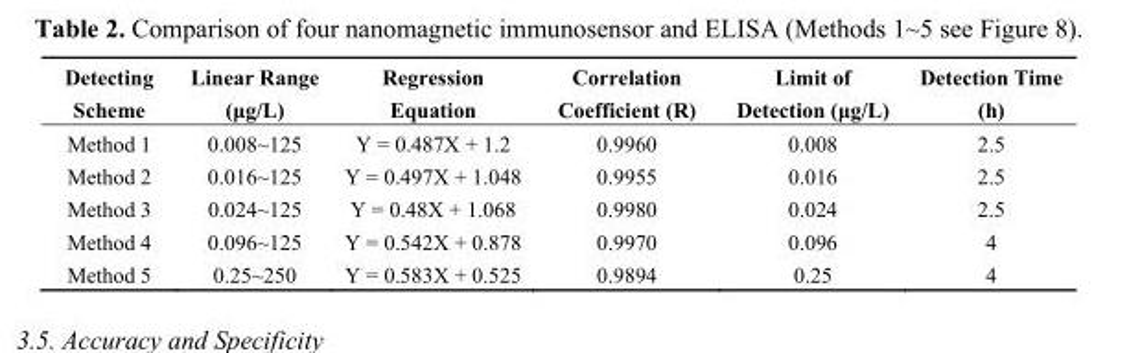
<table><thead><tr><td>Detecting Scheme</td><td>Linear Range (μg/L)</td><td>Regression Equation</td><td>Correlation Coefficient (R)</td><td>Limit of Detection (μg/L)</td><td>Detection Time (h)</td></tr></thead><tbody><tr><td>Method 1</td><td>0.008~125</td><td>Y = 0.487X + 1.2</td><td>0.9960</td><td>0.008</td><td>2.5</td></tr><tr><td>Method 2</td><td>0.016~125</td><td>Y = 0.497X + 1.048</td><td>0.9955</td><td>0.016</td><td>2.5</td></tr><tr><td>Method 3</td><td>0.024~125</td><td>Y = 0.48X + 1.068</td><td>0.9980</td><td>0.024</td><td>2.5</td></tr><tr><td>Method 4</td><td>0.096~125</td><td>Y = 0.542X + 0.878</td><td>0.9970</td><td>0.096</td><td>4</td></tr><tr><td>Method 5</td><td>0.25~250</td><td>Y = 0.583X + 0.525</td><td>0.9894</td><td>0.25</td><td>4</td></tr></tbody></table>